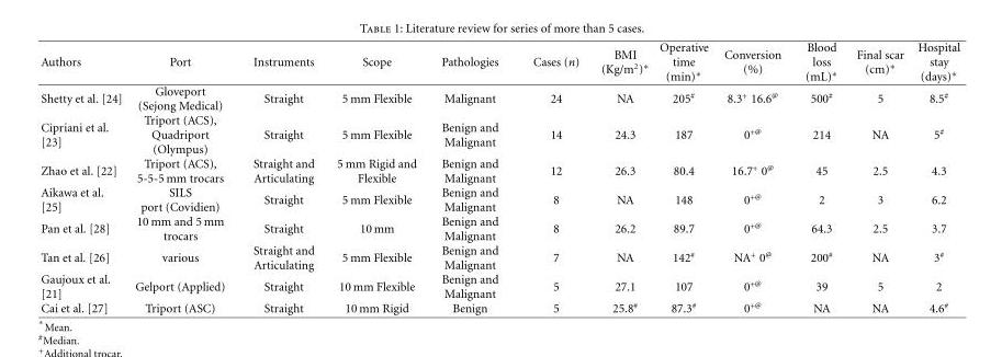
<table><thead><tr><td>Authors</td><td>Port</td><td>Instruments</td><td>Scope</td><td>Pathologies</td><td>Cases (n)</td><td>BMI (Kg/m<sup>2</sup>)∗</td><td>Operative time (min)∗</td><td>Conversion (%)</td><td>Blood loss (mL)∗</td><td>Final scar (cm)∗</td><td>Hospital stay (days)∗</td></tr></thead><tbody><tr><td>Shetty et al. [24]</td><td>Gloveport (Sejong Medical)</td><td>Straight</td><td>5 mm Flexible</td><td>Malignant</td><td>24</td><td>NA</td><td>205<sup>#</sup></td><td>8.3<sup>+</sup> 16.6<sup>@</sup></td><td>500<sup>#</sup></td><td>5</td><td>8.5<sup>#</sup></td></tr><tr><td>Cipriani et al. [23]</td><td>Triport (ACS), Quadriport (Olympus)</td><td>Straight</td><td>5 mm Flexible</td><td>Benign and Malignant</td><td>14</td><td>24.3</td><td>187</td><td>0<sup>+@</sup></td><td>214</td><td>NA</td><td>5<sup>#</sup></td></tr><tr><td>Zhao et al. [22]</td><td>Triport (ACS), 5-5-5 mm trocars</td><td>Straight and Articulating</td><td>5 mm Rigid and Flexible</td><td>Benign and Malignant</td><td>12</td><td>26.3</td><td>80.4</td><td>16.7<sup>+</sup> 0<sup>@</sup></td><td>45</td><td>2.5</td><td>4.3</td></tr><tr><td>Aikawa et al. [25]</td><td>SILS port (Covidien)</td><td>Straight</td><td>5 mm Flexible</td><td>Benign and Malignant</td><td>8</td><td>NA</td><td>148</td><td>0<sup>+@</sup></td><td>2</td><td>3</td><td>6.2</td></tr><tr><td>Pan et al. [28]</td><td>10 mm and 5 mm trocars</td><td>Straight</td><td>10 mm</td><td>Benign and Malignant</td><td>8</td><td>26.2</td><td>89.7</td><td>0<sup>+@</sup></td><td>64.3</td><td>2.5</td><td>3.7</td></tr><tr><td>Tan et al. [26]</td><td>various</td><td>Straight and Articulating</td><td>5 mm Flexible</td><td>Benign and Malignant</td><td>7</td><td>NA</td><td>142<sup>#</sup></td><td>NA<sup>+</sup> 0<sup>@</sup></td><td>200<sup>#</sup></td><td>NA</td><td>3<sup>#</sup></td></tr><tr><td>Gaujoux et al. [21]</td><td>Gelport (Applied)</td><td>Straight</td><td>10 mm Flexible</td><td>Benign and Malignant</td><td>5</td><td>27.1</td><td>107</td><td>0<sup>+@</sup></td><td>39</td><td>5</td><td>2</td></tr><tr><td>Cai et al. [27]</td><td>Triport (ASC)</td><td>Straight</td><td>10 mm Rigid</td><td>Benign</td><td>5</td><td>25.8<sup>#</sup></td><td>87.3<sup>#</sup></td><td>0<sup>+@</sup></td><td>NA</td><td>NA</td><td>4.6<sup>#</sup></td></tr></tbody></table>